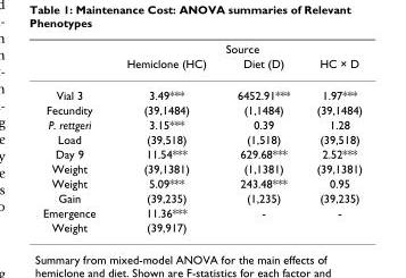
<table><thead><tr><td rowspan="2"></td><td colspan="3">Source</td></tr><tr><td>Hemiclone (HC)</td><td>Diet (D)</td><td>HC × D</td></tr></thead><tbody><tr><td>Vial 3</td><td>3.49***</td><td>6452.91***</td><td>1.97***</td></tr><tr><td>Fecundity</td><td>(39,1484)</td><td>(1,1484)</td><td>(39,1484)</td></tr><tr><td>P. rettgeri</td><td>3.15***</td><td>0.39</td><td>1.28</td></tr><tr><td>Load</td><td>(39,518)</td><td>(1,518)</td><td>(39,518)</td></tr><tr><td>Day 9</td><td>11.54***</td><td>629.68***</td><td>2.52***</td></tr><tr><td>Weight</td><td>(39,1381)</td><td>(1,1381)</td><td>(39,1381)</td></tr><tr><td>Weight</td><td>5.09***</td><td>243.48***</td><td>0.95</td></tr><tr><td>Gain</td><td>(39,235)</td><td>(1,235)</td><td>(39,235)</td></tr><tr><td>Emergence</td><td>11.36***</td><td>-</td><td>-</td></tr><tr><td>Weight</td><td>(39,917)</td><td></td><td></td></tr></tbody></table>